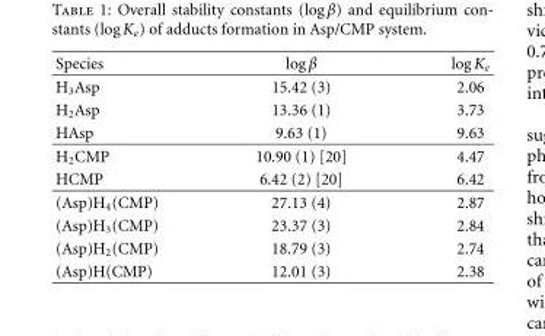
<table><thead><tr><td>Species</td><td>logβ</td><td>log K<sub>e</sub></td></tr></thead><tbody><tr><td>H<sub>3</sub>Asp</td><td>15.42 (3)</td><td>2.06</td></tr><tr><td>H<sub>2</sub>Asp</td><td>13.36 (1)</td><td>3.73</td></tr><tr><td>HAsp</td><td>9.63 (1)</td><td>9.63</td></tr><tr><td>H<sub>2</sub>CMP</td><td>10.90 (1) [20]</td><td>4.47</td></tr><tr><td>HCMP</td><td>6.42 (2) [20]</td><td>6.42</td></tr><tr><td>(Asp)H<sub>4</sub>(CMP)</td><td>27.13 (4)</td><td>2.87</td></tr><tr><td>(Asp)H<sub>3</sub>(CMP)</td><td>23.37 (3)</td><td>2.84</td></tr><tr><td>(Asp)H<sub>2</sub>(CMP)</td><td>18.79 (3)</td><td>2.74</td></tr><tr><td>(Asp)H(CMP)</td><td>12.01 (3)</td><td>2.38</td></tr></tbody></table>